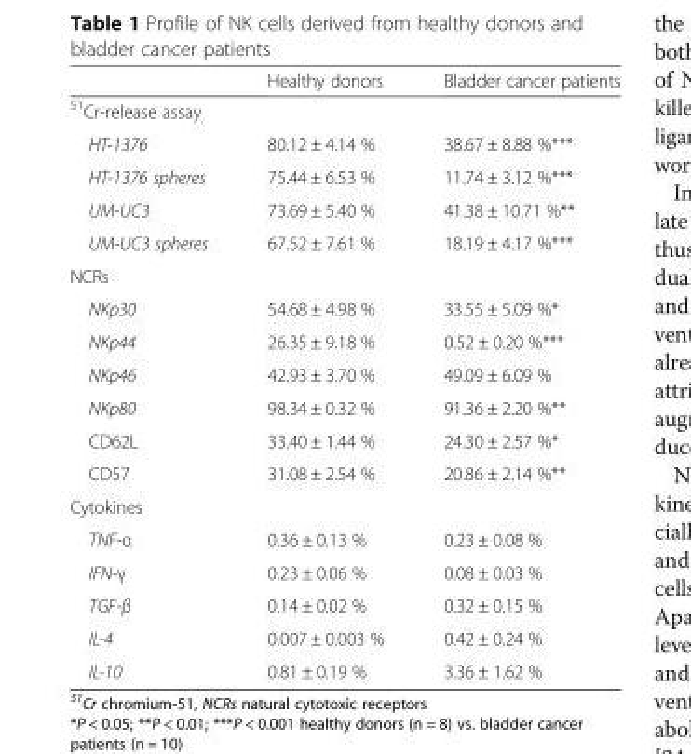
<table><thead><tr><td></td><td>Healthy donors</td><td>Bladder cancer patients</td></tr></thead><tbody><tr><td colspan="3"><sup>51</sup>Cr-release assay</td></tr><tr><td>HT-1376</td><td>80.12 ± 4.14 %</td><td>38.67 ± 8.88 %***</td></tr><tr><td>HT-1376 spheres</td><td>75.44 ± 6.53 %</td><td>11.74 ± 3.12 %***</td></tr><tr><td>UM-UC3</td><td>73.69 ± 5.40 %</td><td>41.38 ± 10.71 %**</td></tr><tr><td>UM-UC3 spheres</td><td>67.52 ± 7.61 %</td><td>18.19 ± 4.17 %***</td></tr><tr><td colspan="3">NCRs</td></tr><tr><td>NKp30</td><td>54.68 ± 4.98 %</td><td>33.55 ± 5.09 %*</td></tr><tr><td>NKp44</td><td>26.35 ± 9.18 %</td><td>0.52 ± 0.20 %***</td></tr><tr><td>NKp46</td><td>42.93 ± 3.70 %</td><td>49.09 ± 6.09 %</td></tr><tr><td>NKp80</td><td>98.34 ± 0.32 %</td><td>91.36 ± 2.20 %**</td></tr><tr><td>CD62L</td><td>33.40 ± 1.44 %</td><td>24.30 ± 2.57 %*</td></tr><tr><td>CD57</td><td>31.08 ± 2.54 %</td><td>20.86 ± 2.14 %**</td></tr><tr><td colspan="3">Cytokines</td></tr><tr><td>TNF-α</td><td>0.36 ± 0.13 %</td><td>0.23 ± 0.08 %</td></tr><tr><td>IFN-γ</td><td>0.23 ± 0.06 %</td><td>0.08 ± 0.03 %</td></tr><tr><td>TGF-β</td><td>0.14 ± 0.02 %</td><td>0.32 ± 0.15 %</td></tr><tr><td>IL-4</td><td>0.007 ± 0.003 %</td><td>0.42 ± 0.24 %</td></tr><tr><td>IL-10</td><td>0.81 ± 0.19 %</td><td>3.36 ± 1.62 %</td></tr></tbody></table>